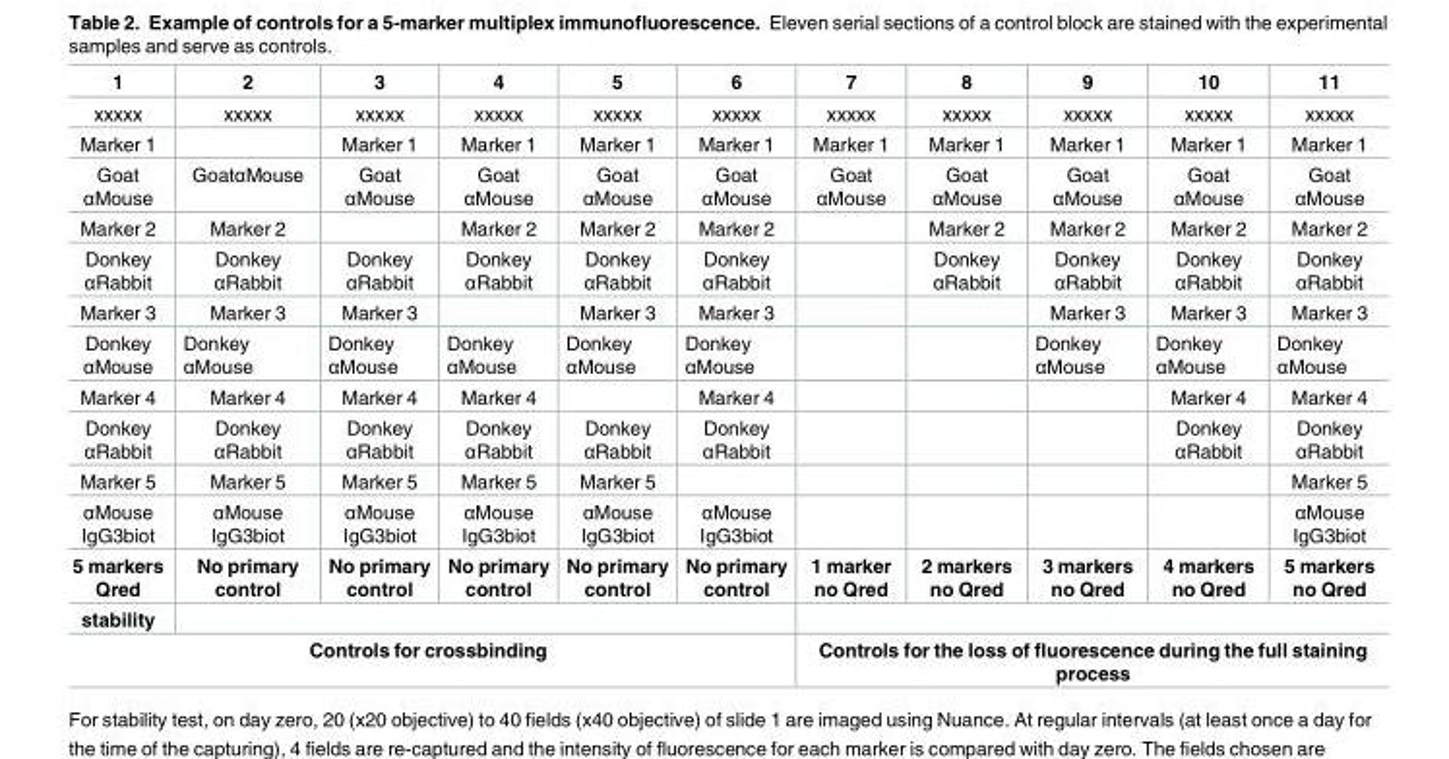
<table><thead><tr><td>1</td><td>2</td><td>3</td><td>4</td><td>5</td><td>6</td><td>7</td><td>8</td><td>9</td><td>10</td><td>11</td></tr></thead><tbody><tr><td>xxxxx</td><td>xxxxx</td><td>xxxxx</td><td>xxxxx</td><td>xxxxx</td><td>xxxxx</td><td>xxxxx</td><td>xxxxx</td><td>xxxxx</td><td>xxxxx</td><td>xxxxx</td></tr><tr><td>Marker 1</td><td></td><td>Marker 1</td><td>Marker 1</td><td>Marker 1</td><td>Marker 1</td><td>Marker 1</td><td>Marker 1</td><td>Marker 1</td><td>Marker 1</td><td>Marker 1</td></tr><tr><td>Goat αMouse</td><td>GoatαMouse</td><td>Goat αMouse</td><td>Goat αMouse</td><td>Goat αMouse</td><td>Goat αMouse</td><td>Goat αMouse</td><td>Goat αMouse</td><td>Goat αMouse</td><td>Goat αMouse</td><td>Goat αMouse</td></tr><tr><td>Marker 2</td><td>Marker 2</td><td></td><td>Marker 2</td><td>Marker 2</td><td>Marker 2</td><td></td><td>Marker 2</td><td>Marker 2</td><td>Marker 2</td><td>Marker 2</td></tr><tr><td>Donkey αRabbit</td><td>Donkey αRabbit</td><td>Donkey αRabbit</td><td>Donkey αRabbit</td><td>Donkey αRabbit</td><td>Donkey αRabbit</td><td></td><td>Donkey αRabbit</td><td>Donkey αRabbit</td><td>Donkey αRabbit</td><td>Donkey αRabbit</td></tr><tr><td>Marker 3</td><td>Marker 3</td><td>Marker 3</td><td></td><td>Marker 3</td><td>Marker 3</td><td></td><td></td><td>Marker 3</td><td>Marker 3</td><td>Marker 3</td></tr><tr><td>Donkey αMouse</td><td>Donkey αMouse</td><td>Donkey αMouse</td><td>Donkey αMouse</td><td>Donkey αMouse</td><td>Donkey αMouse</td><td></td><td></td><td>Donkey αMouse</td><td>Donkey αMouse</td><td>Donkey αMouse</td></tr><tr><td>Marker 4</td><td>Marker 4</td><td>Marker 4</td><td>Marker 4</td><td></td><td>Marker 4</td><td></td><td></td><td></td><td>Marker 4</td><td>Marker 4</td></tr><tr><td>Donkey αRabbit</td><td>Donkey αRabbit</td><td>Donkey αRabbit</td><td>Donkey αRabbit</td><td>Donkey αRabbit</td><td>Donkey αRabbit</td><td></td><td></td><td></td><td>Donkey αRabbit</td><td>Donkey αRabbit</td></tr><tr><td>Marker 5</td><td>Marker 5</td><td>Marker 5</td><td>Marker 5</td><td>Marker 5</td><td></td><td></td><td></td><td></td><td></td><td>Marker 5</td></tr><tr><td>αMouse IgG3biot</td><td>αMouse IgG3biot</td><td>αMouse IgG3biot</td><td>αMouse IgG3biot</td><td>αMouse IgG3biot</td><td>αMouse IgG3biot</td><td></td><td></td><td></td><td></td><td>αMouse IgG3biot</td></tr><tr><td>5 markers Qred</td><td>No primary control</td><td>No primary control</td><td>No primary control</td><td>No primary control</td><td>No primary control</td><td>1 marker no Qred</td><td>2 markers no Qred</td><td>3 markers no Qred</td><td>4 markers no Qred</td><td>5 markers no Qred</td></tr><tr><td colspan="11">stability</td></tr><tr><td colspan="6">Controls for crossbinding</td><td colspan="5">Controls for the loss of fluorescence during the full staining process</td></tr></tbody></table>